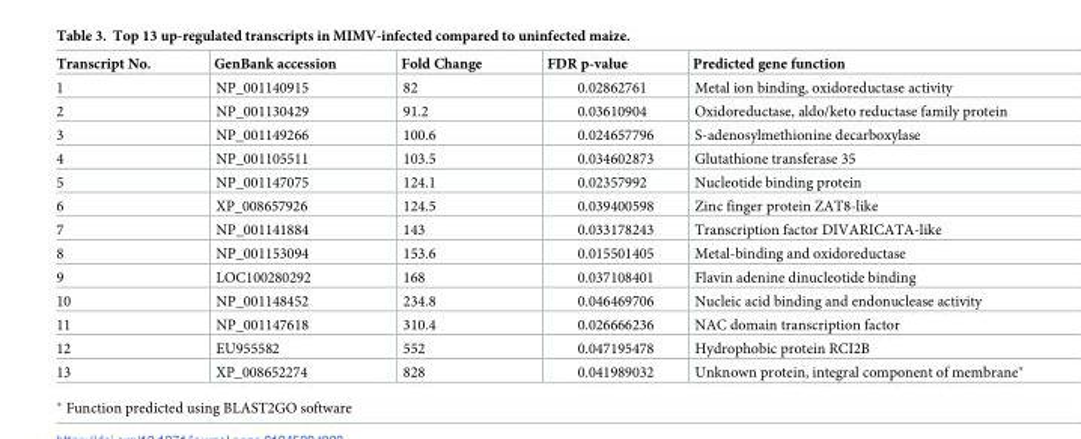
<table><thead><tr><td>Transcript No.</td><td>GenBank accession</td><td>Fold Change</td><td>FDR p-value</td><td>Predicted gene function</td></tr></thead><tbody><tr><td>1</td><td>NP_001140915</td><td>82</td><td>0.02862761</td><td>Metal ion binding, oxidoreductase activity</td></tr><tr><td>2</td><td>NP_001130429</td><td>91.2</td><td>0.03610904</td><td>Oxidoreductase, aldo/keto reductase family protein</td></tr><tr><td>3</td><td>NP_001149266</td><td>100.6</td><td>0.024657796</td><td>S-adenosylmethionine decarboxylase</td></tr><tr><td>4</td><td>NP_001105511</td><td>103.5</td><td>0.034602873</td><td>Glutathione transferase 35</td></tr><tr><td>5</td><td>NP_001147075</td><td>124.1</td><td>0.02357992</td><td>Nucleotide binding protein</td></tr><tr><td>6</td><td>XP_008657926</td><td>124.5</td><td>0.039400598</td><td>Zinc finger protein ZAT8-like</td></tr><tr><td>7</td><td>NP_001141884</td><td>143</td><td>0.033178243</td><td>Transcription factor DIVARICATA-like</td></tr><tr><td>8</td><td>NP_001153094</td><td>153.6</td><td>0.015501405</td><td>Metal-binding and oxidoreductase</td></tr><tr><td>9</td><td>LOC100280292</td><td>168</td><td>0.037108401</td><td>Flavin adenine dinucleotide binding</td></tr><tr><td>10</td><td>NP_001148452</td><td>234.8</td><td>0.046469706</td><td>Nucleic acid binding and endonuclease activity</td></tr><tr><td>11</td><td>NP_001147618</td><td>310.4</td><td>0.026666236</td><td>NAC domain transcription factor</td></tr><tr><td>12</td><td>EU955582</td><td>552</td><td>0.047195478</td><td>Hydrophobic protein RCI2B</td></tr><tr><td>13</td><td>XP_008652274</td><td>828</td><td>0.041989032</td><td>Unknown protein, integral component of membrane*</td></tr></tbody></table>